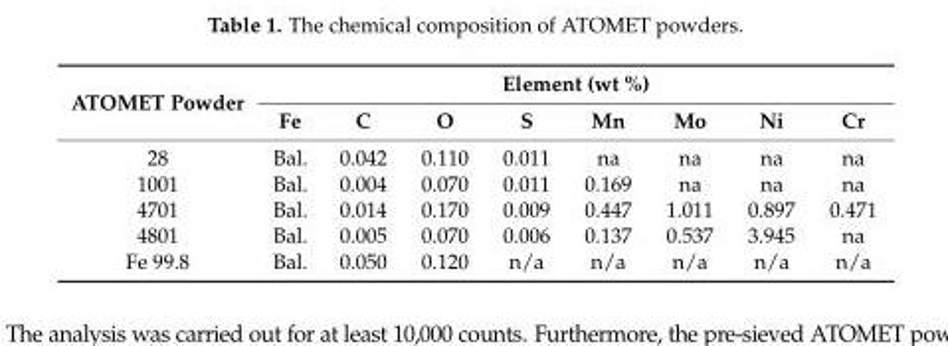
<table><thead><tr><td rowspan="2">ATOMET Powder</td><td colspan="8">Element (wt %)</td></tr><tr><td>Fe</td><td>C</td><td>O</td><td>S</td><td>Mn</td><td>Mo</td><td>Ni</td><td>Cr</td></tr></thead><tbody><tr><td>28</td><td>Bal.</td><td>0.042</td><td>0.110</td><td>0.011</td><td>na</td><td>na</td><td>na</td><td>na</td></tr><tr><td>1001</td><td>Bal.</td><td>0.004</td><td>0.070</td><td>0.011</td><td>0.169</td><td>na</td><td>na</td><td>na</td></tr><tr><td>4701</td><td>Bal.</td><td>0.014</td><td>0.170</td><td>0.009</td><td>0.447</td><td>1.011</td><td>0.897</td><td>0.471</td></tr><tr><td>4801</td><td>Bal.</td><td>0.005</td><td>0.070</td><td>0.006</td><td>0.137</td><td>0.537</td><td>3.945</td><td>na</td></tr><tr><td>Fe 99.8</td><td>Bal.</td><td>0.050</td><td>0.120</td><td>n/a</td><td>n/a</td><td>n/a</td><td>n/a</td><td>n/a</td></tr></tbody></table>